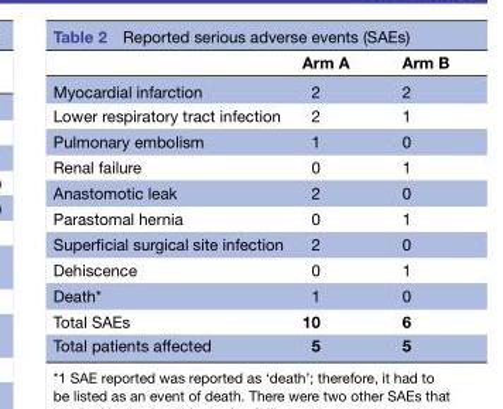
<table><thead><tr><td></td><td>Arm A</td><td>Arm B</td></tr></thead><tbody><tr><td>Myocardial infarction</td><td>2</td><td>2</td></tr><tr><td>Lower respiratory tract infection</td><td>2</td><td>1</td></tr><tr><td>Pulmonary embolism</td><td>1</td><td>0</td></tr><tr><td>Renal failure</td><td>0</td><td>1</td></tr><tr><td>Anastomotic leak</td><td>2</td><td>0</td></tr><tr><td>Parastomal hernia</td><td>0</td><td>1</td></tr><tr><td>Superficial surgical site infection</td><td>2</td><td>0</td></tr><tr><td>Dehiscence</td><td>0</td><td>1</td></tr><tr><td>Death*</td><td>1</td><td>0</td></tr><tr><td>Total SAEs</td><td>10</td><td>6</td></tr><tr><td>Total patients affected</td><td>5</td><td>5</td></tr></tbody></table>